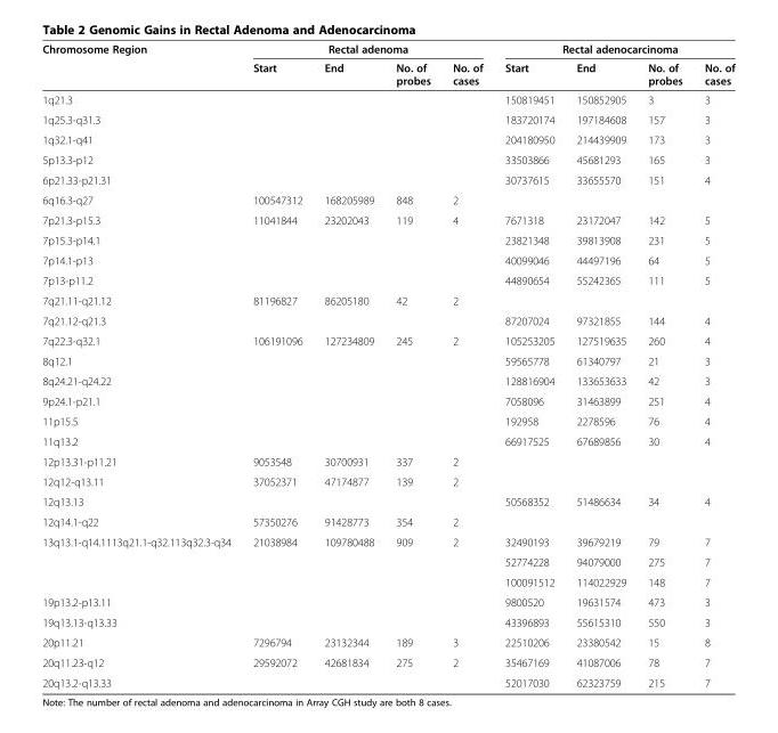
<table><thead><tr><td rowspan="2">Chromosome Region</td><td colspan="4">Rectal adenoma</td><td colspan="4">Rectal adenocarcinoma</td></tr><tr><td>Start</td><td>End</td><td>No. of probes</td><td>No. of cases</td><td>Start</td><td>End</td><td>No. of probes</td><td>No. of cases</td></tr></thead><tbody><tr><td>1q21.3</td><td></td><td></td><td></td><td></td><td>150819451</td><td>150852905</td><td>3</td><td>3</td></tr><tr><td>1q25.3-q31.3</td><td></td><td></td><td></td><td></td><td>183720174</td><td>197184608</td><td>157</td><td>3</td></tr><tr><td>1q32.1-q41</td><td></td><td></td><td></td><td></td><td>204180950</td><td>214439909</td><td>173</td><td>3</td></tr><tr><td>5p13.3-p12</td><td></td><td></td><td></td><td></td><td>33503866</td><td>45681293</td><td>165</td><td>3</td></tr><tr><td>6p21.33-p21.31</td><td></td><td></td><td></td><td></td><td>30737615</td><td>33655570</td><td>151</td><td>4</td></tr><tr><td>6q16.3-q27</td><td>100547312</td><td>168205989</td><td>848</td><td>2</td><td></td><td></td><td></td><td></td></tr><tr><td>7p21.3-p15.3</td><td>11041844</td><td>23202043</td><td>119</td><td>4</td><td>7671318</td><td>23172047</td><td>142</td><td>5</td></tr><tr><td>7p15.3-p14.1</td><td></td><td></td><td></td><td></td><td>23821348</td><td>39813908</td><td>231</td><td>5</td></tr><tr><td>7p14.1-p13</td><td></td><td></td><td></td><td></td><td>40099046</td><td>44497196</td><td>64</td><td>5</td></tr><tr><td>7p13-p11.2</td><td></td><td></td><td></td><td></td><td>44890654</td><td>55242365</td><td>111</td><td>5</td></tr><tr><td>7q21.11-q21.12</td><td>81196827</td><td>86205180</td><td>42</td><td>2</td><td></td><td></td><td></td><td></td></tr><tr><td>7q21.12-q21.3</td><td></td><td></td><td></td><td></td><td>87207024</td><td>97321855</td><td>144</td><td>4</td></tr><tr><td>7q22.3-q32.1</td><td>106191096</td><td>127234809</td><td>245</td><td>2</td><td>105253205</td><td>127519635</td><td>260</td><td>4</td></tr><tr><td>8q12.1</td><td></td><td></td><td></td><td></td><td>59565778</td><td>61340797</td><td>21</td><td>3</td></tr><tr><td>8q24.21-q24.22</td><td></td><td></td><td></td><td></td><td>128816904</td><td>133653633</td><td>42</td><td>3</td></tr><tr><td>9p24.1-p21.1</td><td></td><td></td><td></td><td></td><td>7058096</td><td>31463899</td><td>251</td><td>4</td></tr><tr><td>11p15.5</td><td></td><td></td><td></td><td></td><td>192958</td><td>2278596</td><td>76</td><td>4</td></tr><tr><td>11q13.2</td><td></td><td></td><td></td><td></td><td>66917525</td><td>67689856</td><td>30</td><td>4</td></tr><tr><td>12p13.31-p11.21</td><td>9053548</td><td>30700931</td><td>337</td><td>2</td><td></td><td></td><td></td><td></td></tr><tr><td>12q12-q13.11</td><td>37052371</td><td>47174877</td><td>139</td><td>2</td><td></td><td></td><td></td><td></td></tr><tr><td>12q13.13</td><td></td><td></td><td></td><td></td><td>50568352</td><td>51486634</td><td>34</td><td>4</td></tr><tr><td>12q14.1-q22</td><td>57350276</td><td>91428773</td><td>354</td><td>2</td><td></td><td></td><td></td><td></td></tr><tr><td rowspan="3">13q13.1-q14.1113q21.1-q32.113q32.3-q34</td><td>21038984</td><td>109780488</td><td>909</td><td>2</td><td>32490193</td><td>39679219</td><td>79</td><td>7</td></tr><tr><td></td><td></td><td></td><td></td><td>52774228</td><td>94079000</td><td>275</td><td>7</td></tr><tr><td></td><td></td><td></td><td></td><td>100091512</td><td>114022929</td><td>148</td><td>7</td></tr><tr><td>19p13.2-p13.11</td><td></td><td></td><td></td><td></td><td>9800520</td><td>19631574</td><td>473</td><td>3</td></tr><tr><td>19q13.13-q13.33</td><td></td><td></td><td></td><td></td><td>43396893</td><td>55615310</td><td>550</td><td>3</td></tr><tr><td>20p11.21</td><td>7296794</td><td>23132344</td><td>189</td><td>3</td><td>22510206</td><td>23380542</td><td>15</td><td>8</td></tr><tr><td>20q11.23-q12</td><td>29592072</td><td>42681834</td><td>275</td><td>2</td><td>35467169</td><td>41087006</td><td>78</td><td>7</td></tr><tr><td>20q13.2-q13.33</td><td></td><td></td><td></td><td></td><td>52017030</td><td>62323759</td><td>215</td><td>7</td></tr></tbody></table>